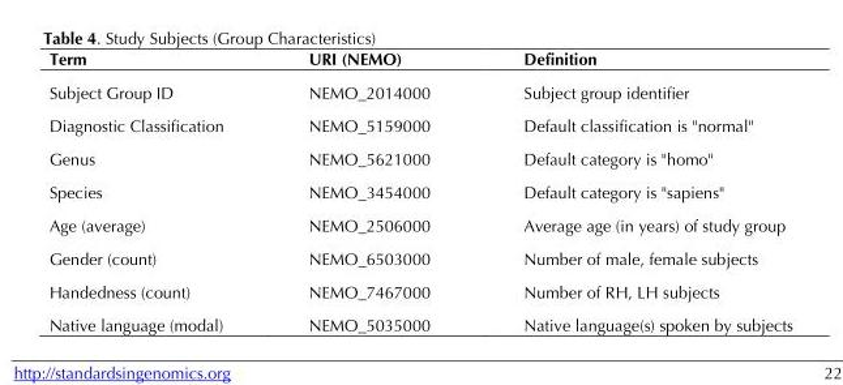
<table><thead><tr><td>Term</td><td>URI (NEMO)</td><td>Definition</td></tr></thead><tbody><tr><td>Subject Group ID</td><td>NEMO_2014000</td><td>Subject group identifier</td></tr><tr><td>Diagnostic Classification</td><td>NEMO_5159000</td><td>Default classification is &quot;normal&quot;</td></tr><tr><td>Genus</td><td>NEMO_5621000</td><td>Default category is &quot;homo&quot;</td></tr><tr><td>Species</td><td>NEMO_3454000</td><td>Default category is &quot;sapiens&quot;</td></tr><tr><td>Age (average)</td><td>NEMO_2506000</td><td>Average age (in years) of study group</td></tr><tr><td>Gender (count)</td><td>NEMO_6503000</td><td>Number of male, female subjects</td></tr><tr><td>Handedness (count)</td><td>NEMO_7467000</td><td>Number of RH, LH subjects</td></tr><tr><td>Native language (modal)</td><td>NEMO_5035000</td><td>Native language(s) spoken by subjects</td></tr></tbody></table>